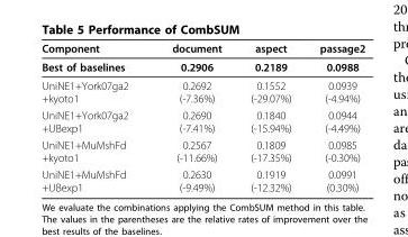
<table><thead><tr><td>Component</td><td>document</td><td>aspect</td><td>passage2</td></tr></thead><tbody><tr><td>Best of baselines</td><td>0.2906</td><td>0.2189</td><td>0.0988</td></tr><tr><td>UniNE1+York07ga2 +kyoto1</td><td>0.2692 (-7.36%)</td><td>0.1552 (-29.07%)</td><td>0.0939 (-4.94%)</td></tr><tr><td>UniNE1+York07ga2 +UBexp1</td><td>0.2690 (-7.41%)</td><td>0.1840 (-15.94%)</td><td>0.0944 (-4.49%)</td></tr><tr><td>UniNE1+MuMshFd +kyoto1</td><td>0.2567 (-11.66%)</td><td>0.1809 (-17.35%)</td><td>0.0985 (-0.30%)</td></tr><tr><td>UniNE1+MuMshFd +UBexp1</td><td>0.2630 (-9.49%)</td><td>0.1919 (-12.32%)</td><td>0.0991 (0.30%)</td></tr></tbody></table>